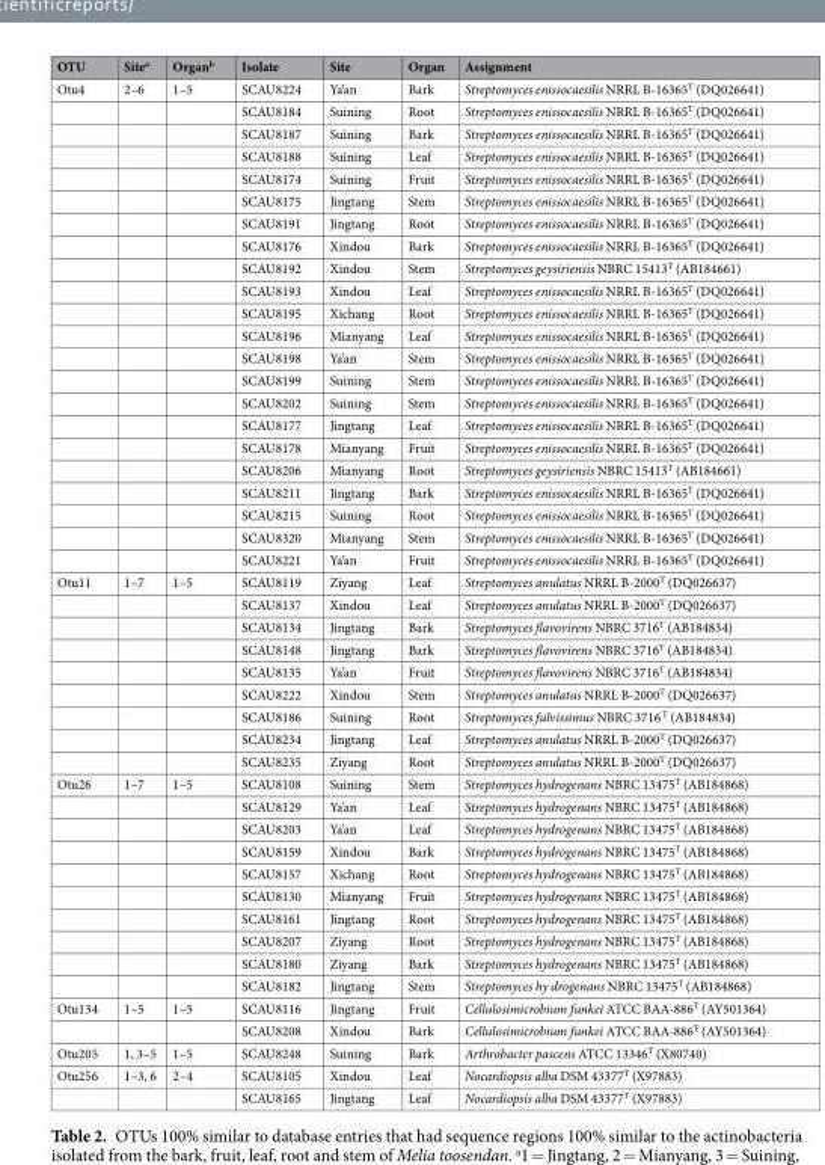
<table><thead><tr><td>OTU</td><td>Site<sup>a</sup></td><td>Organ<sup>b</sup></td><td>Isolate</td><td>Site</td><td>Organ</td><td>Assignment</td></tr></thead><tbody><tr><td rowspan="22">Otu4</td><td>2–6</td><td>1–5</td><td>SCAU8224</td><td>Ya’an</td><td>Bark</td><td>Streptomyces enissocaesilis NRRL B-16365<sup>T</sup> (DQ026641)</td></tr><tr><td></td><td></td><td>SCAU8184</td><td>Suining</td><td>Root</td><td>Streptomyces enissocaesilis NRRL B-16365<sup>T</sup> (DQ026641)</td></tr><tr><td></td><td></td><td>SCAU8187</td><td>Suining</td><td>Bark</td><td>Streptomyces enissocaesilis NRRL B-16365<sup>T</sup> (DQ026641)</td></tr><tr><td></td><td></td><td>SCAU8188</td><td>Suining</td><td>Leaf</td><td>Streptomyces enissocaesilis NRRL B-16365<sup>T</sup> (DQ026641)</td></tr><tr><td></td><td></td><td>SCAU8174</td><td>Suining</td><td>Fruit</td><td>Streptomyces enissocaesilis NRRL B-16365<sup>T</sup> (DQ026641)</td></tr><tr><td></td><td></td><td>SCAU8175</td><td>Jingtang</td><td>Stem</td><td>Streptomyces enissocaesilis NRRL B-16365<sup>T</sup> (DQ026641)</td></tr><tr><td></td><td></td><td>SCAU8191</td><td>Jingtang</td><td>Root</td><td>Streptomyces enissocaesilis NRRL B-16365<sup>T</sup> (DQ026641)</td></tr><tr><td></td><td></td><td>SCAU8176</td><td>Xindou</td><td>Bark</td><td>Streptomyces enissocaesilis NRRL B-16365<sup>T</sup> (DQ026641)</td></tr><tr><td></td><td></td><td>SCAU8192</td><td>Xindou</td><td>Stem</td><td>Streptomyces geysiriensis NBRC 15413<sup>T</sup> (AB184661)</td></tr><tr><td></td><td></td><td>SCAU8193</td><td>Xindou</td><td>Leaf</td><td>Streptomyces enissocaesilis NRRL B-16365<sup>T</sup> (DQ026641)</td></tr><tr><td></td><td></td><td>SCAU8195</td><td>Xichang</td><td>Root</td><td>Streptomyces enissocaesilis NRRL B-16365<sup>T</sup> (DQ026641)</td></tr><tr><td></td><td></td><td>SCAU8196</td><td>Mianyang</td><td>Leaf</td><td>Streptomyces enissocaesilis NRRL B-16365<sup>T</sup> (DQ026641)</td></tr><tr><td></td><td></td><td>SCAU8198</td><td>Ya’an</td><td>Stem</td><td>Streptomyces enissocaesilis NRRL B-16365<sup>T</sup> (DQ026641)</td></tr><tr><td></td><td></td><td>SCAU8199</td><td>Suining</td><td>Stem</td><td>Streptomyces enissocaesilis NRRL B-16365<sup>T</sup> (DQ026641)</td></tr><tr><td></td><td></td><td>SCAU8202</td><td>Suining</td><td>Stem</td><td>Streptomyces enissocaesilis NRRL B-16365<sup>T</sup> (DQ026641)</td></tr><tr><td></td><td></td><td>SCAU8177</td><td>Jingtang</td><td>Leaf</td><td>Streptomyces enissocaesilis NRRL B-16365<sup>T</sup> (DQ026641)</td></tr><tr><td></td><td></td><td>SCAU8178</td><td>Mianyang</td><td>Fruit</td><td>Streptomyces enissocaesilis NRRL B-16365<sup>T</sup> (DQ026641)</td></tr><tr><td></td><td></td><td>SCAU8206</td><td>Mianyang</td><td>Root</td><td>Streptomyces geysiriensis NBRC 15413<sup>T</sup> (AB184661)</td></tr><tr><td></td><td></td><td>SCAU8211</td><td>Jingtang</td><td>Bark</td><td>Streptomyces enissocaesilis NRRL B-16365<sup>T</sup> (DQ026641)</td></tr><tr><td></td><td></td><td>SCAU8215</td><td>Suining</td><td>Root</td><td>Streptomyces enissocaesilis NRRL B-16365<sup>T</sup> (DQ026641)</td></tr><tr><td></td><td></td><td>SCAU8320</td><td>Mianyang</td><td>Stem</td><td>Streptomyces enissocaesilis NRRL B-16365<sup>T</sup> (DQ026641)</td></tr><tr><td></td><td></td><td>SCAU8221</td><td>Ya’an</td><td>Fruit</td><td>Streptomyces enissocaesilis NRRL B-16365<sup>T</sup> (DQ026641)</td></tr><tr><td rowspan="9">Otu11</td><td>1–7</td><td>1–5</td><td>SCAU8119</td><td>Ziyang</td><td>Leaf</td><td>Streptomyces anulatus NRRL B-2000<sup>T</sup> (DQ026637)</td></tr><tr><td></td><td></td><td>SCAU8137</td><td>Xindou</td><td>Leaf</td><td>Streptomyces anulatus NRRL B-2000<sup>T</sup> (DQ026637)</td></tr><tr><td></td><td></td><td>SCAU8134</td><td>Jingtang</td><td>Bark</td><td>Streptomyces flavovirens NBRC 3716<sup>T</sup> (AB184834)</td></tr><tr><td></td><td></td><td>SCAU8148</td><td>Jingtang</td><td>Bark</td><td>Streptomyces flavovirens NBRC 3716<sup>T</sup> (AB184834)</td></tr><tr><td></td><td></td><td>SCAU8135</td><td>Ya’an</td><td>Fruit</td><td>Streptomyces flavovirens NBRC 3716<sup>T</sup> (AB184834)</td></tr><tr><td></td><td></td><td>SCAU8222</td><td>Xindou</td><td>Stem</td><td>Streptomyces anulatus NRRL B-2000<sup>T</sup> (DQ026637)</td></tr><tr><td></td><td></td><td>SCAU8186</td><td>Suining</td><td>Root</td><td>Streptomyces fulvissimus NBRC 3716 <sup>T</sup> (AB184834)</td></tr><tr><td></td><td></td><td>SCAU8234</td><td>Jingtang</td><td>Leaf</td><td>Streptomyces anulatus NRRL B-2000<sup>T</sup> (DQ026637)</td></tr><tr><td></td><td></td><td>SCAU8235</td><td>Ziyang</td><td>Root</td><td>Streptomyces anulatus NRRL B-2000<sup>T</sup> (DQ026637)</td></tr><tr><td rowspan="10">Otu26</td><td>1–7</td><td>1–5</td><td>SCAU8108</td><td>Suining</td><td>Stem</td><td>Streptomyces hydrogenans NBRC 13475<sup>T</sup> (AB184868)</td></tr><tr><td></td><td></td><td>SCAU8129</td><td>Ya’an</td><td>Leaf</td><td>Streptomyces hydrogenans NBRC 13475<sup>T</sup> (AB184868)</td></tr><tr><td></td><td></td><td>SCAU8203</td><td>Ya’an</td><td>Leaf</td><td>Streptomyces hydrogenans NBRC 13475<sup>T</sup> (AB184868)</td></tr><tr><td></td><td></td><td>SCAU8159</td><td>Xindou</td><td>Bark</td><td>Streptomyces hydrogenans NBRC 13475<sup>T</sup> (AB184868)</td></tr><tr><td></td><td></td><td>SCAU8157</td><td>Xichang</td><td>Root</td><td>Streptomyces hydrogenans NBRC 13475<sup>T</sup> (AB184868)</td></tr><tr><td></td><td></td><td>SCAU8130</td><td>Mianyang</td><td>Fruit</td><td>Streptomyces hydrogenans NBRC 13475<sup>T</sup> (AB184868)</td></tr><tr><td></td><td></td><td>SCAU8161</td><td>Jingtang</td><td>Root</td><td>Streptomyces hydrogenans NBRC 13475<sup>T</sup> (AB184868)</td></tr><tr><td></td><td></td><td>SCAU8207</td><td>Ziyang</td><td>Root</td><td>Streptomyces hydrogenans NBRC 13475<sup>T</sup> (AB184868)</td></tr><tr><td></td><td></td><td>SCAU8180</td><td>Ziyang</td><td>Bark</td><td>Streptomyces hydrogenans NBRC 13475<sup>T</sup> (AB184868)</td></tr><tr><td></td><td></td><td>SCAU8182</td><td>Jingtang</td><td>Stem</td><td>Streptomyces hy drogenans NBRC 13475<sup>T</sup> (AB184868)</td></tr><tr><td rowspan="2">Otu134</td><td>1–5</td><td>1–5</td><td>SCAU8116</td><td>Jingtang</td><td>Fruit</td><td>Cellulosimicrobium funkei ATCC BAA-886<sup>T</sup> (AY501364)</td></tr><tr><td></td><td></td><td>SCAU8208</td><td>Xindou</td><td>Bark</td><td>Cellulosimicrobium funkei ATCC BAA-886<sup>T</sup> (AY501364)</td></tr><tr><td>Otu205</td><td>1, 3–5</td><td>1–5</td><td>SCAU8248</td><td>Suining</td><td>Bark</td><td>Arthrobacter pascens ATCC 13346<sup>T</sup> (X80740)</td></tr><tr><td rowspan="2">Otu256</td><td>1–3, 6</td><td>2–4</td><td>SCAU8105</td><td>Xindou</td><td>Leaf</td><td>Nocardiopsis alba DSM 43377<sup>T</sup> (X97883)</td></tr><tr><td></td><td></td><td>SCAU8165</td><td>Jingtang</td><td>Leaf</td><td>Nocardiopsis alba DSM 43377<sup>T</sup> (X97883)</td></tr></tbody></table>